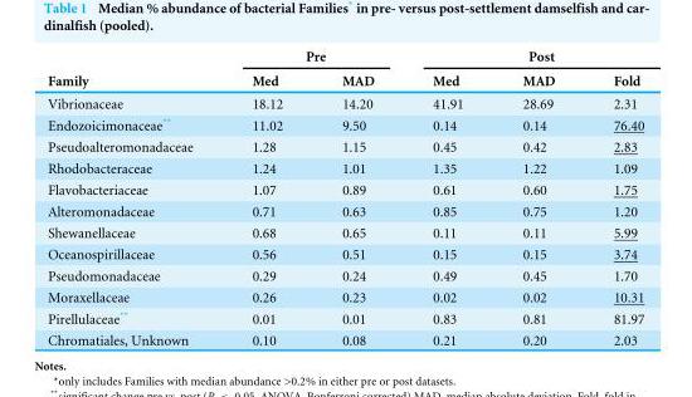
<table><thead><tr><td rowspan="2">Family</td><td colspan="2">Pre</td><td colspan="3">Post</td></tr><tr><td>Med</td><td>MAD</td><td>Med</td><td>MAD</td><td>Fold</td></tr></thead><tbody><tr><td>Vibrionaceae</td><td>18.12</td><td>14.20</td><td>41.91</td><td>28.69</td><td>2.31</td></tr><tr><td>Endozoicimonaceae**</td><td>11.02</td><td>9.50</td><td>0.14</td><td>0.14</td><td>76.40</td></tr><tr><td>Pseudoalteromonadaceae</td><td>1.28</td><td>1.15</td><td>0.45</td><td>0.42</td><td>2.83</td></tr><tr><td>Rhodobacteraceae</td><td>1.24</td><td>1.01</td><td>1.35</td><td>1.22</td><td>1.09</td></tr><tr><td>Flavobacteriaceae</td><td>1.07</td><td>0.89</td><td>0.61</td><td>0.60</td><td>1.75</td></tr><tr><td>Alteromonadaceae</td><td>0.71</td><td>0.63</td><td>0.85</td><td>0.75</td><td>1.20</td></tr><tr><td>Shewanellaceae</td><td>0.68</td><td>0.65</td><td>0.11</td><td>0.11</td><td>5.99</td></tr><tr><td>Oceanospirillaceae</td><td>0.56</td><td>0.51</td><td>0.15</td><td>0.15</td><td>3.74</td></tr><tr><td>Pseudomonadaceae</td><td>0.29</td><td>0.24</td><td>0.49</td><td>0.45</td><td>1.70</td></tr><tr><td>Moraxellaceae</td><td>0.26</td><td>0.23</td><td>0.02</td><td>0.02</td><td>10.31</td></tr><tr><td>Pirellulaceae**</td><td>0.01</td><td>0.01</td><td>0.83</td><td>0.81</td><td>81.97</td></tr><tr><td>Chromatiales, Unknown</td><td>0.10</td><td>0.08</td><td>0.21</td><td>0.20</td><td>2.03</td></tr></tbody></table>